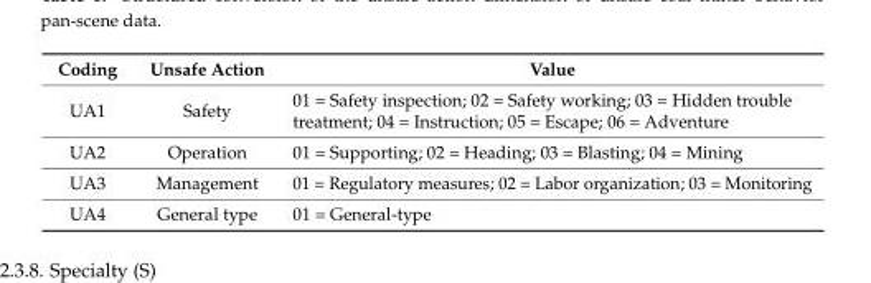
<table><thead><tr><td>Coding</td><td>Unsafe Action</td><td>Value</td></tr></thead><tbody><tr><td>UA1</td><td>Safety</td><td>01 = Safety inspection; 02 = Safety working; 03 = Hidden trouble treatment; 04 = Instruction; 05 = Escape; 06 = Adventure</td></tr><tr><td>UA2</td><td>Operation</td><td>01 = Supporting; 02 = Heading; 03 = Blasting; 04 = Mining</td></tr><tr><td>UA3</td><td>Management</td><td>01 = Regulatory measures; 02 = Labor organization; 03 = Monitoring</td></tr><tr><td>UA4</td><td>General type</td><td>01 = General-type</td></tr></tbody></table>